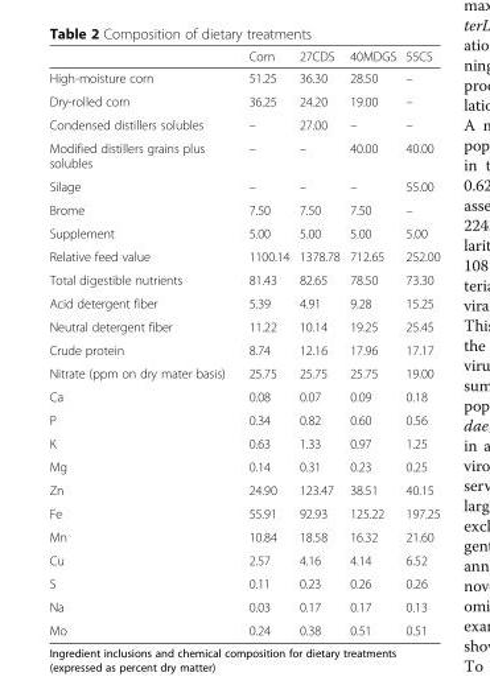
<table><thead><tr><td></td><td>Corn</td><td>27CDS</td><td>40MDGS</td><td>55CS</td></tr></thead><tbody><tr><td>High-moisture corn</td><td>51.25</td><td>36.30</td><td>28.50</td><td>–</td></tr><tr><td>Dry-rolled corn</td><td>36.25</td><td>24.20</td><td>19.00</td><td>–</td></tr><tr><td>Condensed distillers solubles</td><td>–</td><td>27.00</td><td>–</td><td>–</td></tr><tr><td>Modified distillers grains plus solubles</td><td>–</td><td>–</td><td>40.00</td><td>40.00</td></tr><tr><td>Silage</td><td>–</td><td>–</td><td>–</td><td>55.00</td></tr><tr><td>Brome</td><td>7.50</td><td>7.50</td><td>7.50</td><td>–</td></tr><tr><td>Supplement</td><td>5.00</td><td>5.00</td><td>5.00</td><td>5.00</td></tr><tr><td>Relative feed value</td><td>1100.14</td><td>1378.78</td><td>712.65</td><td>252.00</td></tr><tr><td>Total digestible nutrients</td><td>81.43</td><td>82.65</td><td>78.50</td><td>73.30</td></tr><tr><td>Acid detergent fiber</td><td>5.39</td><td>4.91</td><td>9.28</td><td>15.25</td></tr><tr><td>Neutral detergent fiber</td><td>11.22</td><td>10.14</td><td>19.25</td><td>25.45</td></tr><tr><td>Crude protein</td><td>8.74</td><td>12.16</td><td>17.96</td><td>17.17</td></tr><tr><td>Nitrate (ppm on dry mater basis)</td><td>25.75</td><td>25.75</td><td>25.75</td><td>19.00</td></tr><tr><td>Ca</td><td>0.08</td><td>0.07</td><td>0.09</td><td>0.18</td></tr><tr><td>P</td><td>0.34</td><td>0.82</td><td>0.60</td><td>0.56</td></tr><tr><td>K</td><td>0.63</td><td>1.33</td><td>0.97</td><td>1.25</td></tr><tr><td>Mg</td><td>0.14</td><td>0.31</td><td>0.23</td><td>0.25</td></tr><tr><td>Zn</td><td>24.90</td><td>123.47</td><td>38.51</td><td>40.15</td></tr><tr><td>Fe</td><td>55.91</td><td>92.93</td><td>125.22</td><td>197.25</td></tr><tr><td>Mn</td><td>10.84</td><td>18.58</td><td>16.32</td><td>21.60</td></tr><tr><td>Cu</td><td>2.57</td><td>4.16</td><td>4.14</td><td>6.52</td></tr><tr><td>S</td><td>0.11</td><td>0.23</td><td>0.26</td><td>0.26</td></tr><tr><td>Na</td><td>0.03</td><td>0.17</td><td>0.17</td><td>0.13</td></tr><tr><td>Mo</td><td>0.24</td><td>0.38</td><td>0.51</td><td>0.51</td></tr></tbody></table>